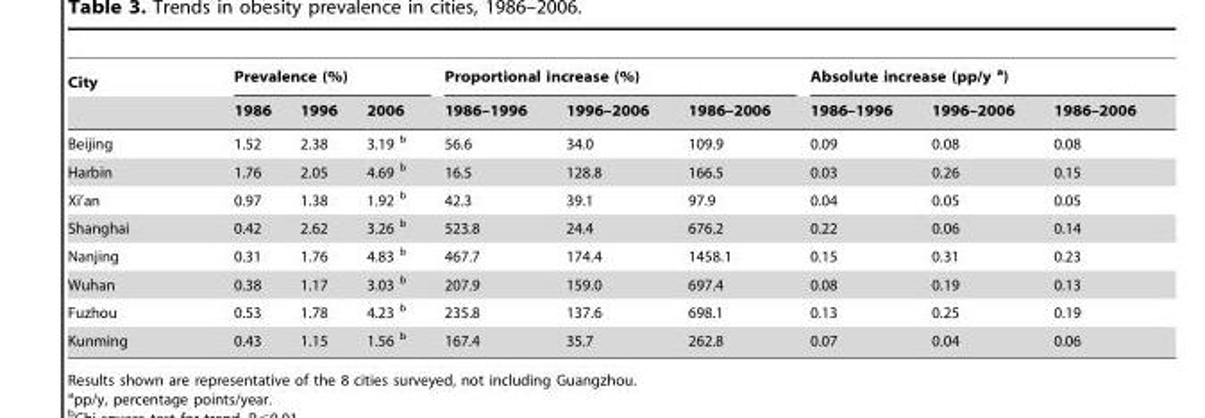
<table><thead><tr><td rowspan="2">City</td><td colspan="3">Prevalence (%)</td><td colspan="3">Proportional increase (%)</td><td colspan="3">Absolute increase (pp/y a)</td></tr><tr><td>1986</td><td>1996</td><td>2006</td><td>1986–1996</td><td>1996–2006</td><td>1986–2006</td><td>1986–1996</td><td>1996–2006</td><td>1986–2006</td></tr></thead><tbody><tr><td>Beijing</td><td>1.52</td><td>2.38</td><td>3.19 b</td><td>56.6</td><td>34.0</td><td>109.9</td><td>0.09</td><td>0.08</td><td>0.08</td></tr><tr><td>Harbin</td><td>1.76</td><td>2.05</td><td>4.69 b</td><td>16.5</td><td>128.8</td><td>166.5</td><td>0.03</td><td>0.26</td><td>0.15</td></tr><tr><td>Xi’an</td><td>0.97</td><td>1.38</td><td>1.92 b</td><td>42.3</td><td>39.1</td><td>97.9</td><td>0.04</td><td>0.05</td><td>0.05</td></tr><tr><td>Shanghai</td><td>0.42</td><td>2.62</td><td>3.26 b</td><td>523.8</td><td>24.4</td><td>676.2</td><td>0.22</td><td>0.06</td><td>0.14</td></tr><tr><td>Nanjing</td><td>0.31</td><td>1.76</td><td>4.83 b</td><td>467.7</td><td>174.4</td><td>1458.1</td><td>0.15</td><td>0.31</td><td>0.23</td></tr><tr><td>Wuhan</td><td>0.38</td><td>1.17</td><td>3.03 b</td><td>207.9</td><td>159.0</td><td>697.4</td><td>0.08</td><td>0.19</td><td>0.13</td></tr><tr><td>Fuzhou</td><td>0.53</td><td>1.78</td><td>4.23 b</td><td>235.8</td><td>137.6</td><td>698.1</td><td>0.13</td><td>0.25</td><td>0.19</td></tr><tr><td>Kunming</td><td>0.43</td><td>1.15</td><td>1.56 b</td><td>167.4</td><td>35.7</td><td>262.8</td><td>0.07</td><td>0.04</td><td>0.06</td></tr></tbody></table>